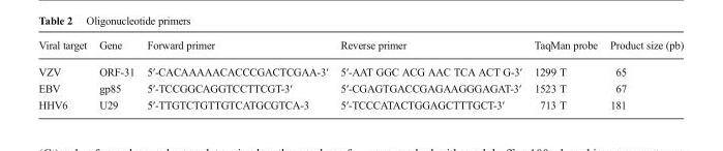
<table><thead><tr><td>Viral target</td><td>Gene</td><td>Forward primer</td><td>Reverse primer</td><td>TaqMan probe</td><td>Product size (pb)</td></tr></thead><tbody><tr><td>VZV</td><td>ORF-31</td><td>5′-CACAAAAACACCCGACTCGAA-3′</td><td>5′-AAT GGC ACG AAC TCA ACT G-3′</td><td>1299 T</td><td>65</td></tr><tr><td>EBV</td><td>gp85</td><td>5′-TCCGGCAGGTCCTTCGT-3′</td><td>5′-CGAGTGACCGAGAAGGGAGAT-3′</td><td>1523 T</td><td>67</td></tr><tr><td>HHV6</td><td>U29</td><td>5′-TTGTCTGTTGTCATGCGTCA-3</td><td>5′-TCCCATACTGGAGCTTTGCT-3′</td><td>713 T</td><td>181</td></tr></tbody></table>